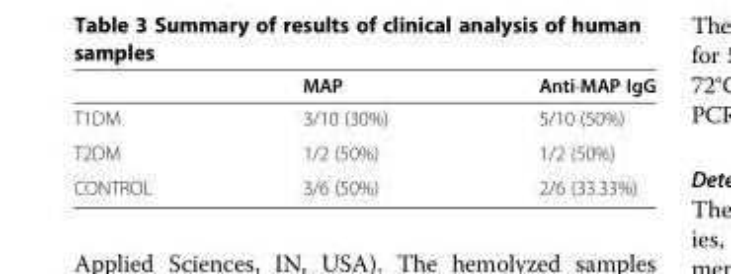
<table><thead><tr><td></td><td>MAP</td><td>Anti-MAP IgG</td></tr></thead><tbody><tr><td>T1DM</td><td>3/10 (30%)</td><td>5/10 (50%)</td></tr><tr><td>T2DM</td><td>1/2 (50%)</td><td>1/2 (50%)</td></tr><tr><td>CONTROL</td><td>3/6 (50%)</td><td>2/6 (33.33%)</td></tr></tbody></table>